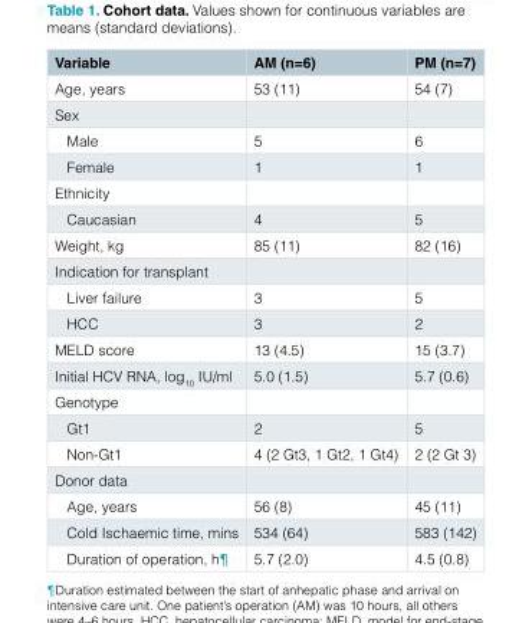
<table><thead><tr><td>Variable</td><td>AM (n=6)</td><td>PM (n=7)</td></tr></thead><tbody><tr><td>Age, years</td><td>53 (11)</td><td>54 (7)</td></tr><tr><td colspan="3">Sex</td></tr><tr><td>Male</td><td>5</td><td>6</td></tr><tr><td>Female</td><td>1</td><td>1</td></tr><tr><td colspan="3">Ethnicity</td></tr><tr><td>Caucasian</td><td>4</td><td>5</td></tr><tr><td>Weight, kg</td><td>85 (11)</td><td>82 (16)</td></tr><tr><td colspan="3">Indication for transplant</td></tr><tr><td>Liver failure</td><td>3</td><td>5</td></tr><tr><td>HCC</td><td>3</td><td>2</td></tr><tr><td>MELD score</td><td>13 (4.5)</td><td>15 (3.7)</td></tr><tr><td>Initial HCV RNA, log<sub>10</sub> IU/ml</td><td>5.0 (1.5)</td><td>5.7 (0.6)</td></tr><tr><td colspan="3">Genotype</td></tr><tr><td>Gt1</td><td>2</td><td>5</td></tr><tr><td>Non-Gt1</td><td>4 (2 Gt3, 1 Gt2, 1 Gt4)</td><td>2 (2 Gt 3)</td></tr><tr><td colspan="3">Donor data</td></tr><tr><td>Age, years</td><td>56 (8)</td><td>45 (11)</td></tr><tr><td>Cold Ischaemic time, mins</td><td>534 (64)</td><td>583 (142)</td></tr><tr><td>Duration of operation, h¶</td><td>5.7 (2.0)</td><td>4.5 (0.8)</td></tr></tbody></table>